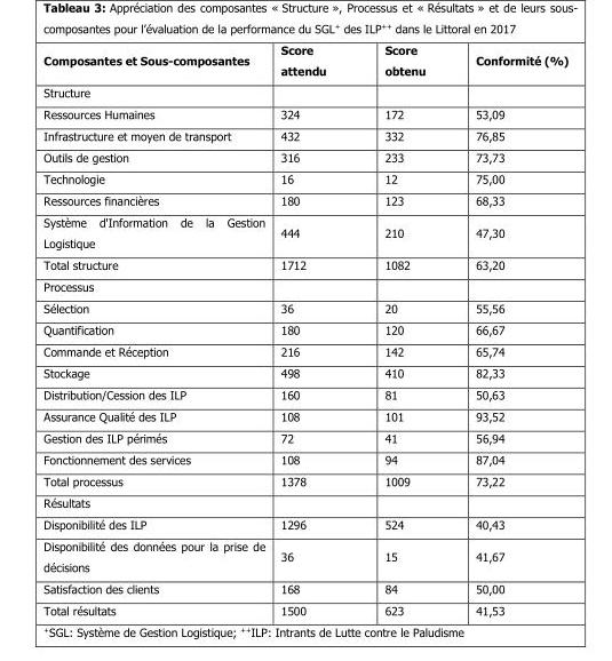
<table><thead><tr><td>Composantes et Sous-composantes</td><td>Score attendu</td><td>Score obtenu</td><td>Conformité (%)</td></tr></thead><tbody><tr><td colspan="4">Structure</td></tr><tr><td>Ressources Humaines</td><td>324</td><td>172</td><td>53,09</td></tr><tr><td>Infrastructure et moyen de transport</td><td>432</td><td>332</td><td>76,85</td></tr><tr><td>Outils de gestion</td><td>316</td><td>233</td><td>73,73</td></tr><tr><td>Technologie</td><td>16</td><td>12</td><td>75,00</td></tr><tr><td>Ressources financières</td><td>180</td><td>123</td><td>68,33</td></tr><tr><td>Système d&#x27;Information de la Gestion Logistique</td><td>444</td><td>210</td><td>47,30</td></tr><tr><td>Total structure</td><td>1712</td><td>1082</td><td>63,20</td></tr><tr><td colspan="4">Processus</td></tr><tr><td>Sélection</td><td>36</td><td>20</td><td>55,56</td></tr><tr><td>Quantification</td><td>180</td><td>120</td><td>66,67</td></tr><tr><td>Commande et Réception</td><td>216</td><td>142</td><td>65,74</td></tr><tr><td>Stockage</td><td>498</td><td>410</td><td>82,33</td></tr><tr><td>Distribution/Cession des ILP</td><td>160</td><td>81</td><td>50,63</td></tr><tr><td>Assurance Qualité des ILP</td><td>108</td><td>101</td><td>93,52</td></tr><tr><td>Gestion des ILP périmés</td><td>72</td><td>41</td><td>56,94</td></tr><tr><td>Fonctionnement des services</td><td>108</td><td>94</td><td>87,04</td></tr><tr><td>Total processus</td><td>1378</td><td>1009</td><td>73,22</td></tr><tr><td colspan="4">Résultats</td></tr><tr><td>Disponibilité des ILP</td><td>1296</td><td>524</td><td>40,43</td></tr><tr><td>Disponibilité des données pour la prise de décisions</td><td>36</td><td>15</td><td>41,67</td></tr><tr><td>Satisfaction des clients</td><td>168</td><td>84</td><td>50,00</td></tr><tr><td>Total résultats</td><td>1500</td><td>623</td><td>41,53</td></tr></tbody></table>